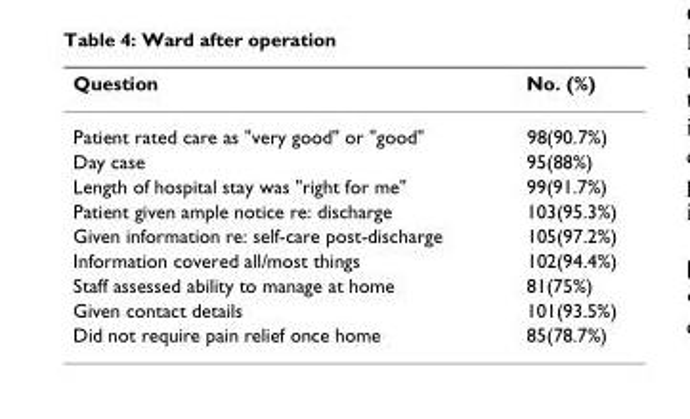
<table><thead><tr><td>Question</td><td>No. (%)</td></tr></thead><tbody><tr><td>Patient rated care as &quot;very good&quot; or &quot;good&quot;</td><td>98(90.7%)</td></tr><tr><td>Day case</td><td>95(88%)</td></tr><tr><td>Length of hospital stay was &quot;right for me&quot;</td><td>99(91.7%)</td></tr><tr><td>Patient given ample notice re: discharge</td><td>103(95.3%)</td></tr><tr><td>Given information re: self-care post-discharge</td><td>105(97.2%)</td></tr><tr><td>Information covered all/most things</td><td>102(94.4%)</td></tr><tr><td>Staff assessed ability to manage at home</td><td>81(75%)</td></tr><tr><td>Given contact details</td><td>101(93.5%)</td></tr><tr><td>Did not require pain relief once home</td><td>85(78.7%)</td></tr></tbody></table>